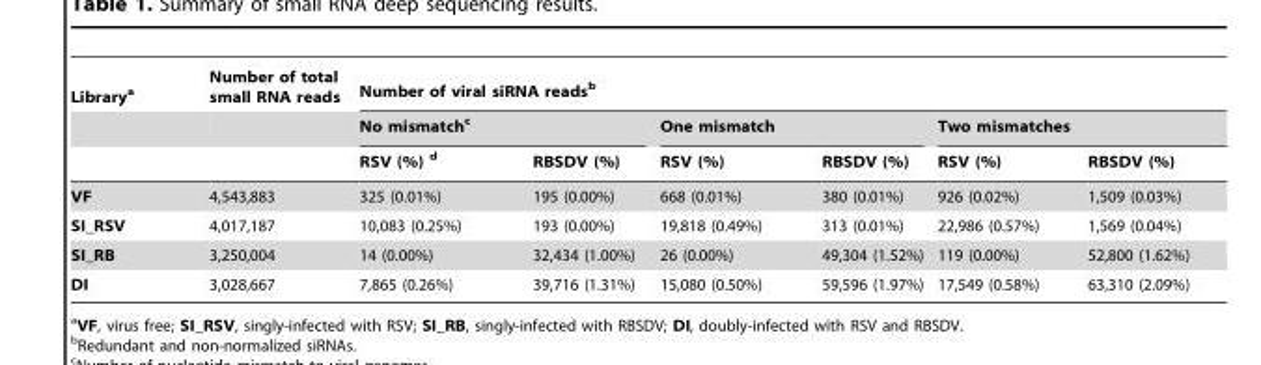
<table><thead><tr><td rowspan="3">Library<sup>a</sup></td><td rowspan="3">Number of total small RNA reads</td><td colspan="6">Number of viral siRNA reads<sup>b</sup></td></tr><tr><td colspan="2">No mismatch<sup>c</sup></td><td colspan="2">One mismatch</td><td colspan="2">Two mismatches</td></tr><tr><td>RSV (%) d</td><td>RBSDV (%)</td><td>RSV (%)</td><td>RBSDV (%)</td><td>RSV (%)</td><td>RBSDV (%)</td></tr></thead><tbody><tr><td>VF</td><td>4,543,883</td><td>325 (0.01%)</td><td>195 (0.00%)</td><td>668 (0.01%)</td><td>380 (0.01%)</td><td>926 (0.02%)</td><td>1,509 (0.03%)</td></tr><tr><td>SI_RSV</td><td>4,017,187</td><td>10,083 (0.25%)</td><td>193 (0.00%)</td><td>19,818 (0.49%)</td><td>313 (0.01%)</td><td>22,986 (0.57%)</td><td>1,569 (0.04%)</td></tr><tr><td>SI_RB</td><td>3,250,004</td><td>14 (0.00%)</td><td>32,434 (1.00%)</td><td>26 (0.00%)</td><td>49,304 (1.52%)</td><td>119 (0.00%)</td><td>52,800 (1.62%)</td></tr><tr><td>DI</td><td>3,028,667</td><td>7,865 (0.26%)</td><td>39,716 (1.31%)</td><td>15,080 (0.50%)</td><td>59,596 (1.97%)</td><td>17,549 (0.58%)</td><td>63,310 (2.09%)</td></tr></tbody></table>